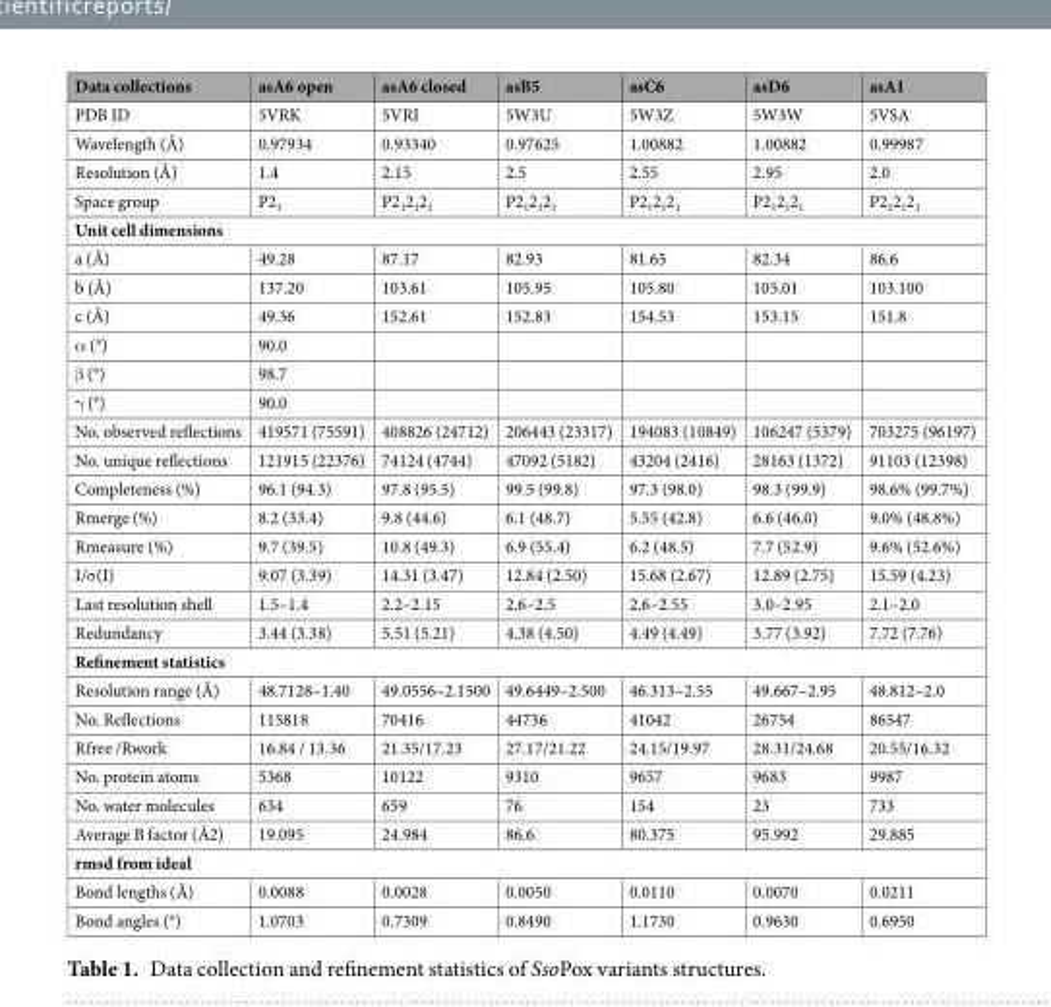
<table><thead><tr><td>Data collections</td><td>asA6 open</td><td>asA6 closed</td><td>asB5</td><td>asC6</td><td>asD6</td><td>asA1</td></tr></thead><tbody><tr><td>PDB ID</td><td>5VRK</td><td>5VRI</td><td>5W3U</td><td>5W3Z</td><td>5W3W</td><td>5VSA</td></tr><tr><td>Wavelength (Å)</td><td>0.97934</td><td>0.93340</td><td>0.97625</td><td>1.00882</td><td>1.00882</td><td>0.99987</td></tr><tr><td>Resolution (Å)</td><td>1.4</td><td>2.15</td><td>2.5</td><td>2.55</td><td>2.95</td><td>2.0</td></tr><tr><td>Space group</td><td>P2<sub>1</sub></td><td>P2<sub>1</sub>2<sub>1</sub>2<sub>1</sub></td><td>P2<sub>1</sub>2<sub>1</sub>2<sub>1</sub></td><td>P2<sub>1</sub>2<sub>1</sub>2<sub>1</sub></td><td>P2<sub>1</sub>2<sub>1</sub>2<sub>1</sub></td><td>P2<sub>1</sub>2<sub>1</sub>2<sub>1</sub></td></tr><tr><td colspan="7">Unit cell dimensions</td></tr><tr><td>a (Å)</td><td>49.28</td><td>87.17</td><td>82.93</td><td>81.65</td><td>82.34</td><td>86.6</td></tr><tr><td>b (Å)</td><td>137.20</td><td>103.61</td><td>105.95</td><td>105.80</td><td>105.01</td><td>103.100</td></tr><tr><td>c (Å)</td><td>49.36</td><td>152.61</td><td>152.83</td><td>154.53</td><td>153.15</td><td>151.8</td></tr><tr><td>α (°)</td><td>90.0</td><td></td><td></td><td></td><td></td><td></td></tr><tr><td>β (°)</td><td>98.7</td><td></td><td></td><td></td><td></td><td></td></tr><tr><td>γ (°)</td><td>90.0</td><td></td><td></td><td></td><td></td><td></td></tr><tr><td>No. observed reflections</td><td>419571 (75591)</td><td>408826 (24712)</td><td>206443 (23317)</td><td>194083 (10849)</td><td>106247 (5379)</td><td>703275 (96197)</td></tr><tr><td>No. unique reflections</td><td>121915 (22376)</td><td>74124 (4744)</td><td>47092 (5182)</td><td>43204 (2416)</td><td>28163 (1372)</td><td>91103 (12398)</td></tr><tr><td>Completeness (%)</td><td>96.1 (94.3)</td><td>97.8 (95.5)</td><td>99.5 (99.8)</td><td>97.3 (98.0)</td><td>98.3 (99.9)</td><td>98.6% (99.7%)</td></tr><tr><td>Rmerge (%)</td><td>8.2 (33.4)</td><td>9.8 (44.6)</td><td>6.1 (48.7)</td><td>5.55 (42.8)</td><td>6.6 (46.0)</td><td>9.0% (48.8%)</td></tr><tr><td>Rmeasure (%)</td><td>9.7 (39.5)</td><td>10.8 (49.3)</td><td>6.9 (55.4)</td><td>6.2 (48.5)</td><td>7.7 (52.9)</td><td>9.6% (52.6%)</td></tr><tr><td>I/σ(I)</td><td>9.07 (3.39)</td><td>14.31 (3.47)</td><td>12.84 (2.50)</td><td>15.68 (2.67)</td><td>12.89 (2.75)</td><td>15.59 (4.23)</td></tr><tr><td>Last resolution shell</td><td>1.5–1.4</td><td>2.2–2.15</td><td>2.6–2.5</td><td>2.6–2.55</td><td>3.0–2.95</td><td>2.1–2.0</td></tr><tr><td>Redundancy</td><td>3.44 (3.38)</td><td>5.51 (5.21)</td><td>4.38 (4.50)</td><td>4.49 (4.49)</td><td>3.77 (3.92)</td><td>7.72 (7.76)</td></tr><tr><td colspan="7">Refinement statistics</td></tr><tr><td>Resolution range (Å)</td><td>48.7128–1.40</td><td>49.0556–2.1500</td><td>49.6449–2.500</td><td>46.313–2.55</td><td>49.667–2.95</td><td>48.812–2.0</td></tr><tr><td>No. Reflections</td><td>115818</td><td>70416</td><td>44736</td><td>41042</td><td>26754</td><td>86547</td></tr><tr><td>Rfree /Rwork</td><td>16.84 / 13.36</td><td>21.35/17.23</td><td>27.17/21.22</td><td>24.15/19.97</td><td>28.31/24.68</td><td>20.55/16.32</td></tr><tr><td>No. protein atoms</td><td>5368</td><td>10122</td><td>9310</td><td>9657</td><td>9683</td><td>9987</td></tr><tr><td>No. water molecules</td><td>634</td><td>659</td><td>76</td><td>154</td><td>23</td><td>733</td></tr><tr><td>Average B factor (Å2)</td><td>19.095</td><td>24.984</td><td>86.6</td><td>80.375</td><td>95.992</td><td>29.885</td></tr><tr><td colspan="7">rmsd from ideal</td></tr><tr><td>Bond lengths (Å)</td><td>0.0088</td><td>0.0028</td><td>0.0050</td><td>0.0110</td><td>0.0070</td><td>0.0211</td></tr><tr><td>Bond angles (°)</td><td>1.0703</td><td>0.7309</td><td>0.8490</td><td>1.1730</td><td>0.9630</td><td>0.6950</td></tr></tbody></table>